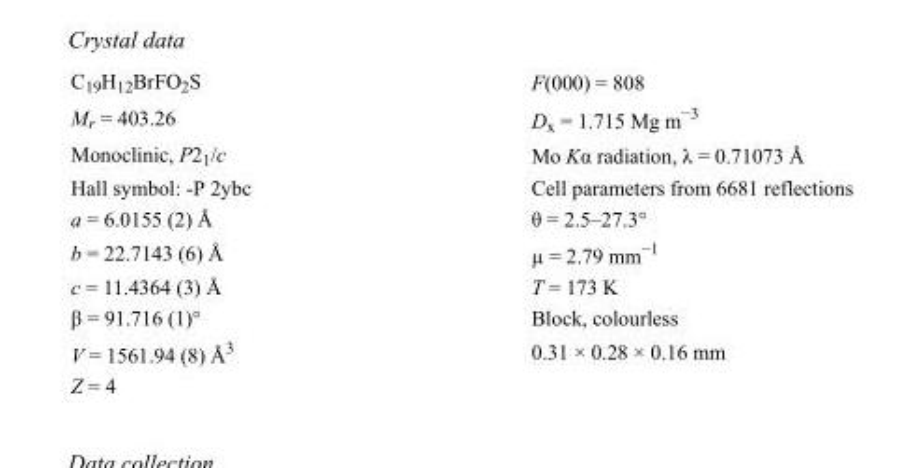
<table><tbody><tr><td>C<sub>19</sub>H<sub>12</sub>BrFO<sub>2</sub>S</td><td>F(000) = 808</td></tr><tr><td>M<sub>r</sub> = 403.26</td><td>D<sub>x</sub> = 1.715 Mg m<sup>−3</sup></td></tr><tr><td>Monoclinic, P2<sub>1</sub>/c</td><td>Mo Kα radiation, λ = 0.71073 Å</td></tr><tr><td>Hall symbol: -P 2ybc</td><td>Cell parameters from 6681 reflections</td></tr><tr><td>a = 6.0155 (2) Å</td><td>θ = 2.5–27.3°</td></tr><tr><td>b = 22.7143 (6) Å</td><td>µ = 2.79 mm<sup>−1</sup></td></tr><tr><td>c = 11.4364 (3) Å</td><td>T = 173 K</td></tr><tr><td>β = 91.716 (1)°</td><td>Block, colourless</td></tr><tr><td>V = 1561.94 (8) Å<sup>3</sup></td><td>0.31 × 0.28 × 0.16 mm</td></tr><tr><td>Z = 4</td><td></td></tr></tbody></table>